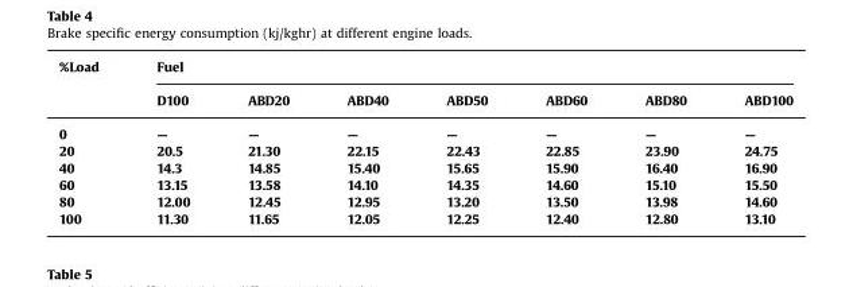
<table><thead><tr><td rowspan="2">%Load</td><td colspan="7">Fuel</td></tr><tr><td>D100</td><td>ABD20</td><td>ABD40</td><td>ABD50</td><td>ABD60</td><td>ABD80</td><td>ABD100</td></tr></thead><tbody><tr><td>0</td><td>—</td><td>—</td><td>—</td><td>—</td><td>—</td><td>—</td><td>—</td></tr><tr><td>20</td><td>20.5</td><td>21.30</td><td>22.15</td><td>22.43</td><td>22.85</td><td>23.90</td><td>24.75</td></tr><tr><td>40</td><td>14.3</td><td>14.85</td><td>15.40</td><td>15.65</td><td>15.90</td><td>16.40</td><td>16.90</td></tr><tr><td>60</td><td>13.15</td><td>13.58</td><td>14.10</td><td>14.35</td><td>14.60</td><td>15.10</td><td>15.50</td></tr><tr><td>80</td><td>12.00</td><td>12.45</td><td>12.95</td><td>13.20</td><td>13.50</td><td>13.98</td><td>14.60</td></tr><tr><td>100</td><td>11.30</td><td>11.65</td><td>12.05</td><td>12.25</td><td>12.40</td><td>12.80</td><td>13.10</td></tr></tbody></table>